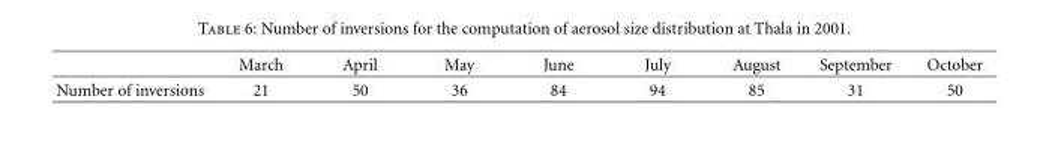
<table><thead><tr><td></td><td>March</td><td>April</td><td>May</td><td>June</td><td>July</td><td>August</td><td>September</td><td>October</td></tr></thead><tbody><tr><td>Number of inversions</td><td>21</td><td>50</td><td>36</td><td>84</td><td>94</td><td>85</td><td>31</td><td>50</td></tr></tbody></table>